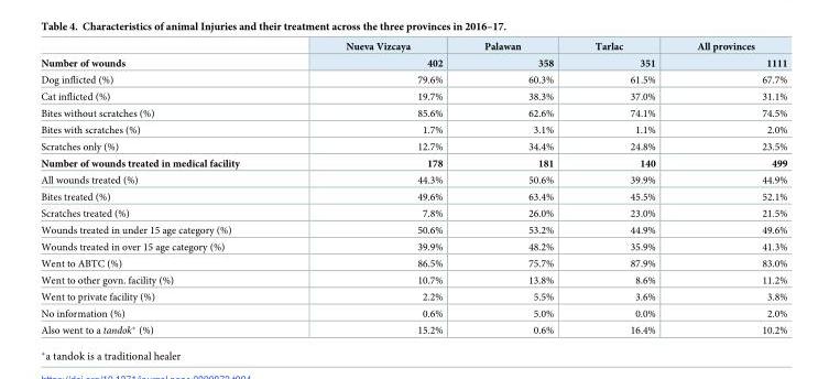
<table><thead><tr><td></td><td>Nueva Vizcaya</td><td>Palawan</td><td>Tarlac</td><td>All provinces</td></tr></thead><tbody><tr><td>Number of wounds</td><td>402</td><td>358</td><td>351</td><td>1111</td></tr><tr><td>Dog inflicted (%)</td><td>79.6%</td><td>60.3%</td><td>61.5%</td><td>67.7%</td></tr><tr><td>Cat inflicted (%)</td><td>19.7%</td><td>38.3%</td><td>37.0%</td><td>31.1%</td></tr><tr><td>Bites without scratches (%)</td><td>85.6%</td><td>62.6%</td><td>74.1%</td><td>74.5%</td></tr><tr><td>Bites with scratches (%)</td><td>1.7%</td><td>3.1%</td><td>1.1%</td><td>2.0%</td></tr><tr><td>Scratches only (%)</td><td>12.7%</td><td>34.4%</td><td>24.8%</td><td>23.5%</td></tr><tr><td>Number of wounds treated in medical facility</td><td>178</td><td>181</td><td>140</td><td>499</td></tr><tr><td>All wounds treated (%)</td><td>44.3%</td><td>50.6%</td><td>39.9%</td><td>44.9%</td></tr><tr><td>Bites treated (%)</td><td>49.6%</td><td>63.4%</td><td>45.5%</td><td>52.1%</td></tr><tr><td>Scratches treated (%)</td><td>7.8%</td><td>26.0%</td><td>23.0%</td><td>21.5%</td></tr><tr><td>Wounds treated in under 15 age category (%)</td><td>50.6%</td><td>53.2%</td><td>44.9%</td><td>49.6%</td></tr><tr><td>Wounds treated in over 15 age category (%)</td><td>39.9%</td><td>48.2%</td><td>35.9%</td><td>41.3%</td></tr><tr><td>Went to ABTC (%)</td><td>86.5%</td><td>75.7%</td><td>87.9%</td><td>83.0%</td></tr><tr><td>Went to other govn. facility (%)</td><td>10.7%</td><td>13.8%</td><td>8.6%</td><td>11.2%</td></tr><tr><td>Went to private facility (%)</td><td>2.2%</td><td>5.5%</td><td>3.6%</td><td>3.8%</td></tr><tr><td>No information (%)</td><td>0.6%</td><td>5.0%</td><td>0.0%</td><td>2.0%</td></tr><tr><td>Also went to a tandok* (%)</td><td>15.2%</td><td>0.6%</td><td>16.4%</td><td>10.2%</td></tr></tbody></table>